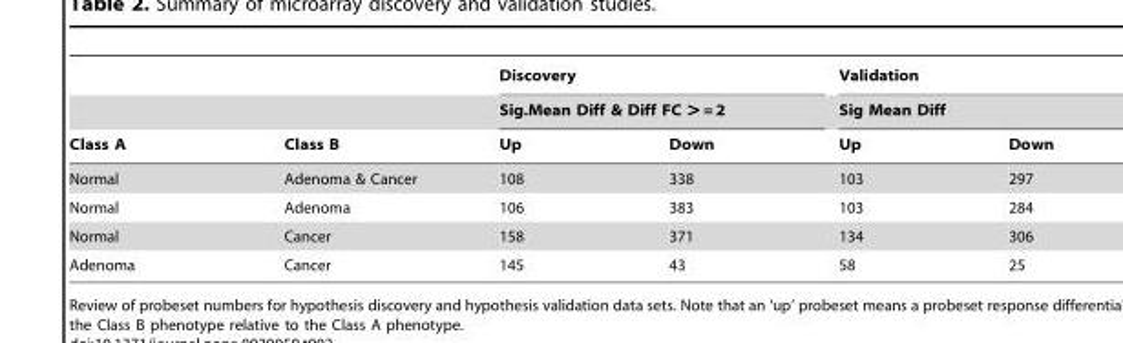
<table><thead><tr><td rowspan="3">Class A</td><td rowspan="3">Class B</td><td rowspan="2" colspan="2">Discovery Sig.Mean Diff &amp; Diff FC &gt; = 2</td><td rowspan="2" colspan="2">Validation Sig Mean Diff</td></tr><tr></tr><tr><td>Up</td><td>Down</td><td>Up</td><td>Down</td></tr></thead><tbody><tr><td>Normal</td><td>Adenoma &amp; Cancer</td><td>108</td><td>338</td><td>103</td><td>297</td></tr><tr><td>Normal</td><td>Adenoma</td><td>106</td><td>383</td><td>103</td><td>284</td></tr><tr><td>Normal</td><td>Cancer</td><td>158</td><td>371</td><td>134</td><td>306</td></tr><tr><td>Adenoma</td><td>Cancer</td><td>145</td><td>43</td><td>58</td><td>25</td></tr></tbody></table>